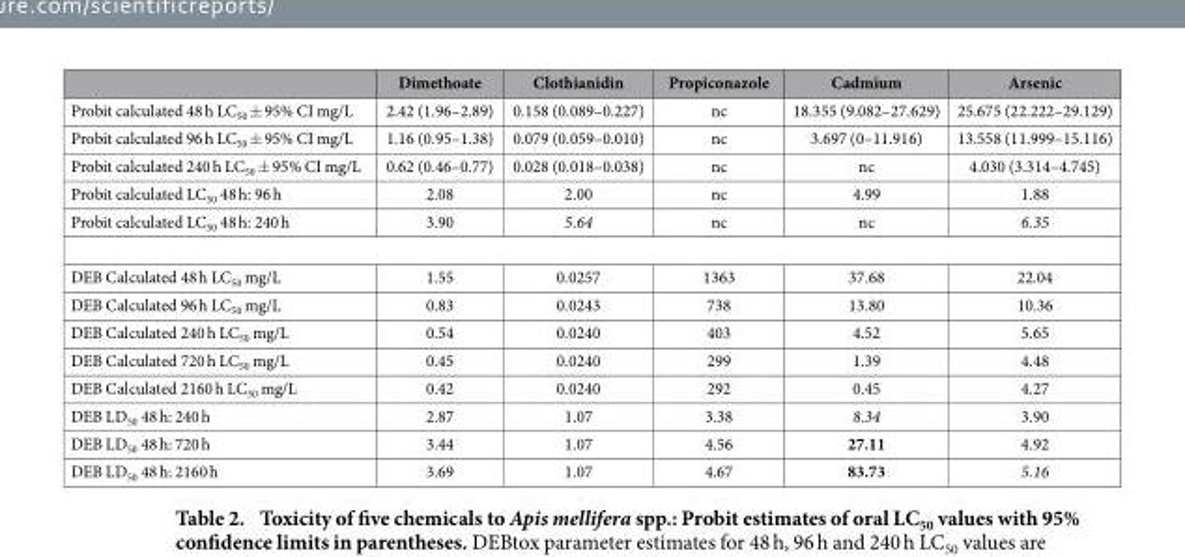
<table><thead><tr><td></td><td>Dimethoate</td><td>Clothianidin</td><td>Propiconazole</td><td>Cadmium</td><td>Arsenic</td></tr></thead><tbody><tr><td>Probit calculated 48 h LC<sub>50</sub> ± 95% CI mg/L</td><td>2.42 (1.96–2.89)</td><td>0.158 (0.089–0.227)</td><td>nc</td><td>18.355 (9.082–27.629)</td><td>25.675 (22.222–29.129)</td></tr><tr><td>Probit calculated 96 h LC<sub>50</sub> ± 95% CI mg/L</td><td>1.16 (0.95–1.38)</td><td>0.079 (0.059–0.010)</td><td>nc</td><td>3.697 (0–11.916)</td><td>13.558 (11.999–15.116)</td></tr><tr><td>Probit calculated 240 h LC<sub>50</sub> ± 95% CI mg/L</td><td>0.62 (0.46–0.77)</td><td>0.028 (0.018–0.038)</td><td>nc</td><td>nc</td><td>4.030 (3.314–4.745)</td></tr><tr><td>Probit calculated LC<sub>50</sub> 48 h: 96 h</td><td>2.08</td><td>2.00</td><td>nc</td><td>4.99</td><td>1.88</td></tr><tr><td>Probit calculated LC<sub>50</sub> 48 h: 240 h</td><td>3.90</td><td>5.64</td><td>nc</td><td>nc</td><td>6.35</td></tr><tr><td>DEB Calculated 48 h LC<sub>50</sub> mg/L</td><td>1.55</td><td>0.0257</td><td>1363</td><td>37.68</td><td>22.04</td></tr><tr><td>DEB Calculated 96 h LC<sub>50</sub> mg/L</td><td>0.83</td><td>0.0243</td><td>738</td><td>13.80</td><td>10.36</td></tr><tr><td>DEB Calculated 240 h LC<sub>50</sub> mg/L</td><td>0.54</td><td>0.0240</td><td>403</td><td>4.52</td><td>5.65</td></tr><tr><td>DEB Calculated 720 h LC<sub>50</sub> mg/L</td><td>0.45</td><td>0.0240</td><td>299</td><td>1.39</td><td>4.48</td></tr><tr><td>DEB Calculated 2160 h LC<sub>50</sub> mg/L</td><td>0.42</td><td>0.0240</td><td>292</td><td>0.45</td><td>4.27</td></tr><tr><td>DEB LD<sub>50</sub> 48 h: 240 h</td><td>2.87</td><td>1.07</td><td>3.38</td><td>8.34</td><td>3.90</td></tr><tr><td>DEB LD<sub>50</sub> 48 h: 720 h</td><td>3.44</td><td>1.07</td><td>4.56</td><td>27.11</td><td>4.92</td></tr><tr><td>DEB LD<sub>50</sub> 48 h: 2160 h</td><td>3.69</td><td>1.07</td><td>4.67</td><td>83.73</td><td>5.16</td></tr></tbody></table>